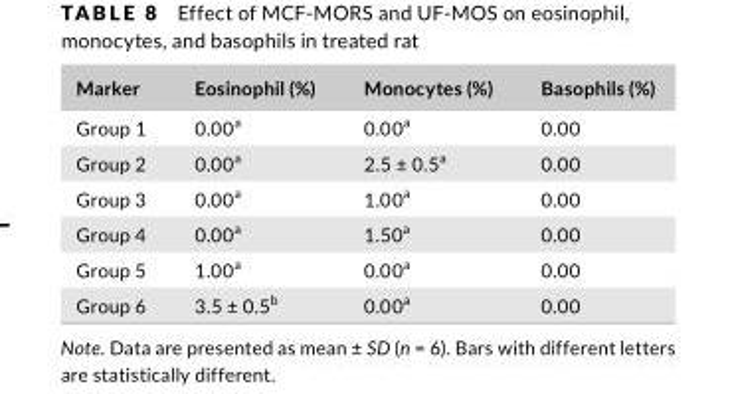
<table><thead><tr><td>Marker</td><td>Eosinophil (%)</td><td>Monocytes (%)</td><td>Basophils (%)</td></tr></thead><tbody><tr><td>Group 1</td><td>0.00<sup>a</sup></td><td>0.00<sup>a</sup></td><td>0.00</td></tr><tr><td>Group 2</td><td>0.00<sup>a</sup></td><td>2.5 ± 0.5<sup>a</sup></td><td>0.00</td></tr><tr><td>Group 3</td><td>0.00<sup>a</sup></td><td>1.00<sup>a</sup></td><td>0.00</td></tr><tr><td>Group 4</td><td>0.00<sup>a</sup></td><td>1.50<sup>a</sup></td><td>0.00</td></tr><tr><td>Group 5</td><td>1.00<sup>a</sup></td><td>0.00<sup>a</sup></td><td>0.00</td></tr><tr><td>Group 6</td><td>3.5 ± 0.5<sup>b</sup></td><td>0.00<sup>a</sup></td><td>0.00</td></tr></tbody></table>